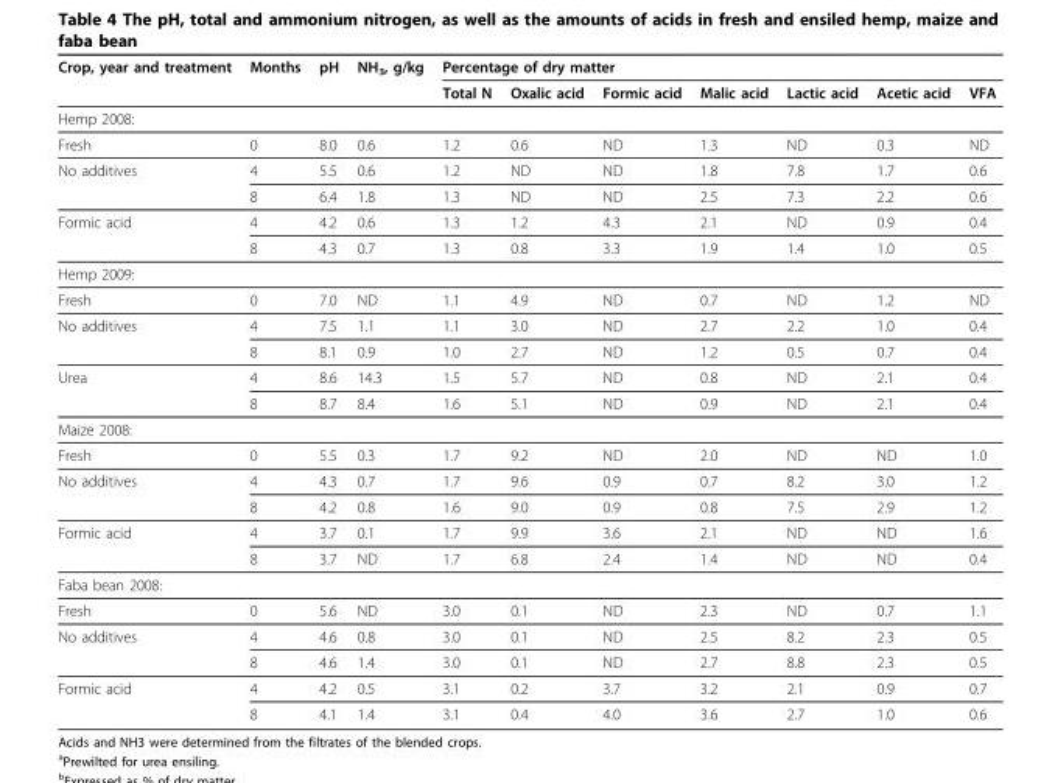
<table><thead><tr><td rowspan="2">Crop, year and treatment</td><td rowspan="2">Months</td><td rowspan="2">pH</td><td rowspan="2">NH<sub>3</sub>, g/kg</td><td colspan="7">Percentage of dry matter</td></tr><tr><td>Total N</td><td>Oxalic acid</td><td>Formic acid</td><td>Malic acid</td><td>Lactic acid</td><td>Acetic acid</td><td>VFA</td></tr></thead><tbody><tr><td colspan="11">Hemp 2008:</td></tr><tr><td>Fresh</td><td>0</td><td>8.0</td><td>0.6</td><td>1.2</td><td>0.6</td><td>ND</td><td>1.3</td><td>ND</td><td>0.3</td><td>ND</td></tr><tr><td rowspan="2">No additives</td><td>4</td><td>5.5</td><td>0.6</td><td>1.2</td><td>ND</td><td>ND</td><td>1.8</td><td>7.8</td><td>1.7</td><td>0.6</td></tr><tr><td>8</td><td>6.4</td><td>1.8</td><td>1.3</td><td>ND</td><td>ND</td><td>2.5</td><td>7.3</td><td>2.2</td><td>0.6</td></tr><tr><td rowspan="2">Formic acid</td><td>4</td><td>4.2</td><td>0.6</td><td>1.3</td><td>1.2</td><td>4.3</td><td>2.1</td><td>ND</td><td>0.9</td><td>0.4</td></tr><tr><td>8</td><td>4.3</td><td>0.7</td><td>1.3</td><td>0.8</td><td>3.3</td><td>1.9</td><td>1.4</td><td>1.0</td><td>0.5</td></tr><tr><td colspan="11">Hemp 2009:</td></tr><tr><td>Fresh</td><td>0</td><td>7.0</td><td>ND</td><td>1.1</td><td>4.9</td><td>ND</td><td>0.7</td><td>ND</td><td>1.2</td><td>ND</td></tr><tr><td rowspan="2">No additives</td><td>4</td><td>7.5</td><td>1.1</td><td>1.1</td><td>3.0</td><td>ND</td><td>2.7</td><td>2.2</td><td>1.0</td><td>0.4</td></tr><tr><td>8</td><td>8.1</td><td>0.9</td><td>1.0</td><td>2.7</td><td>ND</td><td>1.2</td><td>0.5</td><td>0.7</td><td>0.4</td></tr><tr><td rowspan="2">Urea</td><td>4</td><td>8.6</td><td>14.3</td><td>1.5</td><td>5.7</td><td>ND</td><td>0.8</td><td>ND</td><td>2.1</td><td>0.4</td></tr><tr><td>8</td><td>8.7</td><td>8.4</td><td>1.6</td><td>5.1</td><td>ND</td><td>0.9</td><td>ND</td><td>2.1</td><td>0.4</td></tr><tr><td colspan="11">Maize 2008:</td></tr><tr><td>Fresh</td><td>0</td><td>5.5</td><td>0.3</td><td>1.7</td><td>9.2</td><td>ND</td><td>2.0</td><td>ND</td><td>ND</td><td>1.0</td></tr><tr><td rowspan="2">No additives</td><td>4</td><td>4.3</td><td>0.7</td><td>1.7</td><td>9.6</td><td>0.9</td><td>0.7</td><td>8.2</td><td>3.0</td><td>1.2</td></tr><tr><td>8</td><td>4.2</td><td>0.8</td><td>1.6</td><td>9.0</td><td>0.9</td><td>0.8</td><td>7.5</td><td>2.9</td><td>1.2</td></tr><tr><td rowspan="2">Formic acid</td><td>4</td><td>3.7</td><td>0.1</td><td>1.7</td><td>9.9</td><td>3.6</td><td>2.1</td><td>ND</td><td>ND</td><td>1.6</td></tr><tr><td>8</td><td>3.7</td><td>ND</td><td>1.7</td><td>6.8</td><td>2.4</td><td>1.4</td><td>ND</td><td>ND</td><td>0.4</td></tr><tr><td colspan="11">Faba bean 2008:</td></tr><tr><td>Fresh</td><td>0</td><td>5.6</td><td>ND</td><td>3.0</td><td>0.1</td><td>ND</td><td>2.3</td><td>ND</td><td>0.7</td><td>1.1</td></tr><tr><td rowspan="2">No additives</td><td>4</td><td>4.6</td><td>0.8</td><td>3.0</td><td>0.1</td><td>ND</td><td>2.5</td><td>8.2</td><td>2.3</td><td>0.5</td></tr><tr><td>8</td><td>4.6</td><td>1.4</td><td>3.0</td><td>0.1</td><td>ND</td><td>2.7</td><td>8.8</td><td>2.3</td><td>0.5</td></tr><tr><td rowspan="2">Formic acid</td><td>4</td><td>4.2</td><td>0.5</td><td>3.1</td><td>0.2</td><td>3.7</td><td>3.2</td><td>2.1</td><td>0.9</td><td>0.7</td></tr><tr><td>8</td><td>4.1</td><td>1.4</td><td>3.1</td><td>0.4</td><td>4.0</td><td>3.6</td><td>2.7</td><td>1.0</td><td>0.6</td></tr></tbody></table>